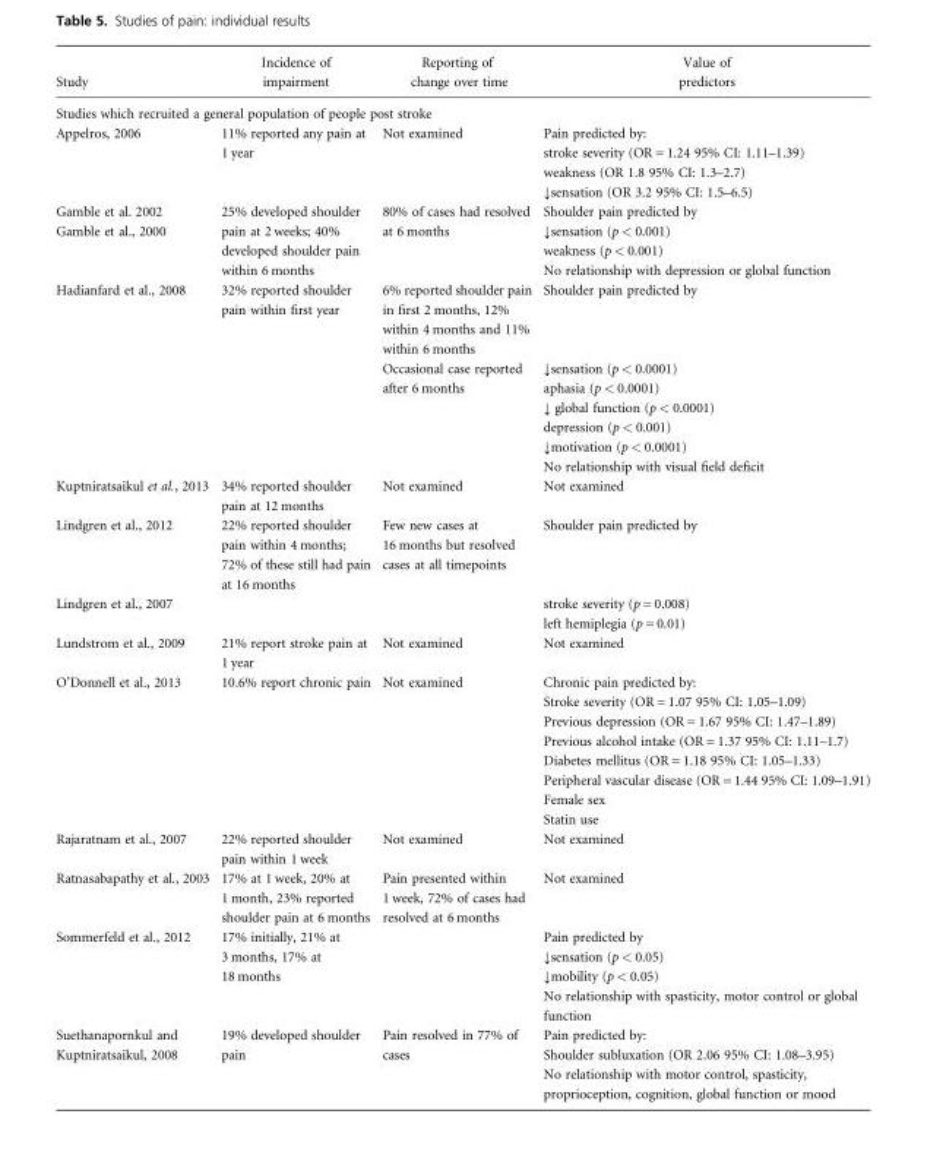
<table><thead><tr><td>Study</td><td>Incidence of impairment</td><td>Reporting of change over time</td><td>Value of predictors</td></tr><tr><td colspan="4">Studies which recruited a general population of people post stroke</td></tr></thead><tbody><tr><td rowspan="4">Appelros, 2006</td><td rowspan="4">11% reported any pain at 1 year</td><td rowspan="4">Not examined</td><td>Pain predicted by:</td></tr><tr><td>stroke severity (OR = 1.24 95% CI: 1.11–1.39)</td></tr><tr><td>weakness (OR 1.8 95% CI: 1.3–2.7)</td></tr><tr><td>↓sensation (OR 3.2 95% CI: 1.5–6.5)</td></tr><tr><td rowspan="4">Gamble et al. 2002 Gamble et al., 2000</td><td rowspan="4">25% developed shoulder pain at 2 weeks; 40% developed shoulder pain within 6 months</td><td rowspan="4">80% of cases had resolved at 6 months</td><td>Shoulder pain predicted by</td></tr><tr><td>↓sensation (p &lt; 0.001)</td></tr><tr><td>weakness (p &lt; 0.001)</td></tr><tr><td>No relationship with depression or global function</td></tr><tr><td rowspan="7">Hadianfard et al., 2008</td><td rowspan="7">32% reported shoulder pain within first year</td><td>6% reported shoulder pain in first 2 months, 12% within 4 months and 11% within 6 months</td><td>Shoulder pain predicted by</td></tr><tr><td rowspan="6">Occasional case reported after 6 months</td><td>↓sensation (p &lt; 0.0001)</td></tr><tr><td>aphasia (p &lt; 0.0001)</td></tr><tr><td>↓ global function (p &lt; 0.0001)</td></tr><tr><td>depression (p &lt; 0.001)</td></tr><tr><td>↓motivation (p &lt; 0.0001)</td></tr><tr><td>No relationship with visual field deficit</td></tr><tr><td>Kuptniratsaikul et al., 2013</td><td>34% reported shoulder pain at 12 months</td><td>Not examined</td><td>Not examined</td></tr><tr><td>Lindgren et al., 2012</td><td>22% reported shoulder pain within 4 months; 72% of these still had pain at 16 months</td><td>Few new cases at 16 months but resolved cases at all timepoints</td><td>Shoulder pain predicted by</td></tr><tr><td rowspan="2">Lindgren et al., 2007</td><td rowspan="2"></td><td rowspan="2"></td><td>stroke severity (p = 0.008)</td></tr><tr><td>left hemiplegia (p = 0.01)</td></tr><tr><td>Lundstrom et al., 2009</td><td>21% report stroke pain at 1 year</td><td>Not examined</td><td>Not examined</td></tr><tr><td rowspan="8">O’Donnell et al., 2013</td><td rowspan="8">10.6% report chronic pain</td><td rowspan="8">Not examined</td><td>Chronic pain predicted by:</td></tr><tr><td>Stroke severity (OR = 1.07 95% CI: 1.05–1.09)</td></tr><tr><td>Previous depression (OR = 1.67 95% CI: 1.47–1.89)</td></tr><tr><td>Previous alcohol intake (OR = 1.37 95% CI: 1.11–1.7)</td></tr><tr><td>Diabetes mellitus (OR = 1.18 95% CI: 1.05–1.33)</td></tr><tr><td>Peripheral vascular disease (OR = 1.44 95% CI: 1.09–1.91)</td></tr><tr><td>Female sex</td></tr><tr><td>Statin use</td></tr><tr><td>Rajaratnam et al., 2007</td><td>22% reported shoulder pain within 1 week</td><td>Not examined</td><td>Not examined</td></tr><tr><td>Ratnasabapathy et al., 2003</td><td>17% at 1 week, 20% at 1 month, 23% reported shoulder pain at 6 months</td><td>Pain presented within 1 week, 72% of cases had resolved at 6 months</td><td>Not examined</td></tr><tr><td rowspan="4">Sommerfeld et al., 2012</td><td rowspan="4">17% initially, 21% at 3 months, 17% at 18 months</td><td rowspan="4"></td><td>Pain predicted by</td></tr><tr><td>↓sensation (p &lt; 0.05)</td></tr><tr><td>↓mobility (p &lt; 0.05)</td></tr><tr><td>No relationship with spasticity, motor control or global function</td></tr><tr><td rowspan="3">Suethanapornkul and Kuptniratsaikul, 2008</td><td rowspan="3">19% developed shoulder pain</td><td rowspan="3">Pain resolved in 77% of cases</td><td>Pain predicted by:</td></tr><tr><td>Shoulder subluxation (OR 2.06 95% CI: 1.08–3.95)</td></tr><tr><td>No relationship with motor control, spasticity, proprioception, cognition, global function or mood</td></tr></tbody></table>